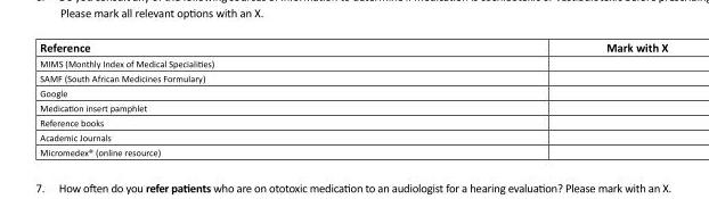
<table><thead><tr><td>Reference</td><td>Mark with X</td></tr></thead><tbody><tr><td colspan="2">MIMS (Monthly Index of Medical Specialities)</td></tr><tr><td colspan="2">SAMF (South African Medicines Formulary)</td></tr><tr><td colspan="2">Google</td></tr><tr><td colspan="2">Medication insert pamphlet</td></tr><tr><td colspan="2">Reference books</td></tr><tr><td colspan="2">Academic Journals</td></tr><tr><td>Micromedex<sup>®</sup> (online resource)</td><td></td></tr></tbody></table>